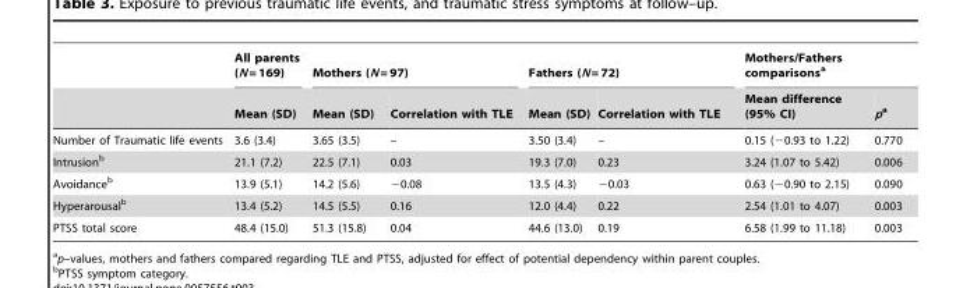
<table><thead><tr><td rowspan="2"></td><td rowspan="2">All parents (N = 169) Mean (SD)</td><td colspan="2">Mothers (N = 97)</td><td colspan="2">Fathers (N = 72)</td><td colspan="2">Mothers/Fathers comparisons<sup>a</sup></td></tr><tr><td>Mean (SD)</td><td>Correlation with TLE</td><td>Mean (SD)</td><td>Correlation with TLE</td><td>Mean difference (95% CI)</td><td>pa</td></tr></thead><tbody><tr><td>Number of Traumatic life events</td><td>3.6 (3.4)</td><td>3.65 (3.5)</td><td>–</td><td>3.50 (3.4)</td><td>–</td><td>0.15 (−0.93 to 1.22)</td><td>0.770</td></tr><tr><td>Intrusion<sup>b</sup></td><td>21.1 (7.2)</td><td>22.5 (7.1)</td><td>0.03</td><td>19.3 (7.0)</td><td>0.23</td><td>3.24 (1.07 to 5.42)</td><td>0.006</td></tr><tr><td>Avoidance<sup>b</sup></td><td>13.9 (5.1)</td><td>14.2 (5.6)</td><td>−0.08</td><td>13.5 (4.3)</td><td>−0.03</td><td>0.63 (−0.90 to 2.15)</td><td>0.090</td></tr><tr><td>Hyperarousal<sup>b</sup></td><td>13.4 (5.2)</td><td>14.5 (5.5)</td><td>0.16</td><td>12.0 (4.4)</td><td>0.22</td><td>2.54 (1.01 to 4.07)</td><td>0.003</td></tr><tr><td>PTSS total score</td><td>48.4 (15.0)</td><td>51.3 (15.8)</td><td>0.04</td><td>44.6 (13.0)</td><td>0.19</td><td>6.58 (1.99 to 11.18)</td><td>0.003</td></tr></tbody></table>